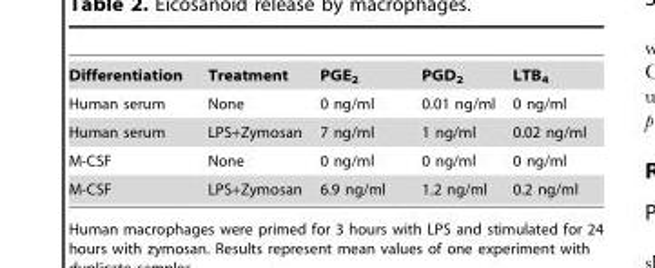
<table><tbody><tr><td>Differentiation</td><td>Treatment</td><td>PGE<sub>2</sub></td><td>PGD<sub>2</sub></td><td>LTB<sub>4</sub></td></tr><tr><td>Human serum</td><td>None</td><td>0 ng/ml</td><td>0.01 ng/ml</td><td>0 ng/ml</td></tr><tr><td>Human serum</td><td>LPS+Zymosan</td><td>7 ng/ml</td><td>1 ng/ml</td><td>0.02 ng/ml</td></tr><tr><td>M-CSF</td><td>None</td><td>0 ng/ml</td><td>0 ng/ml</td><td>0 ng/ml</td></tr><tr><td>M-CSF</td><td>LPS+Zymosan</td><td>6.9 ng/ml</td><td>1.2 ng/ml</td><td>0.2 ng/ml</td></tr></tbody></table>